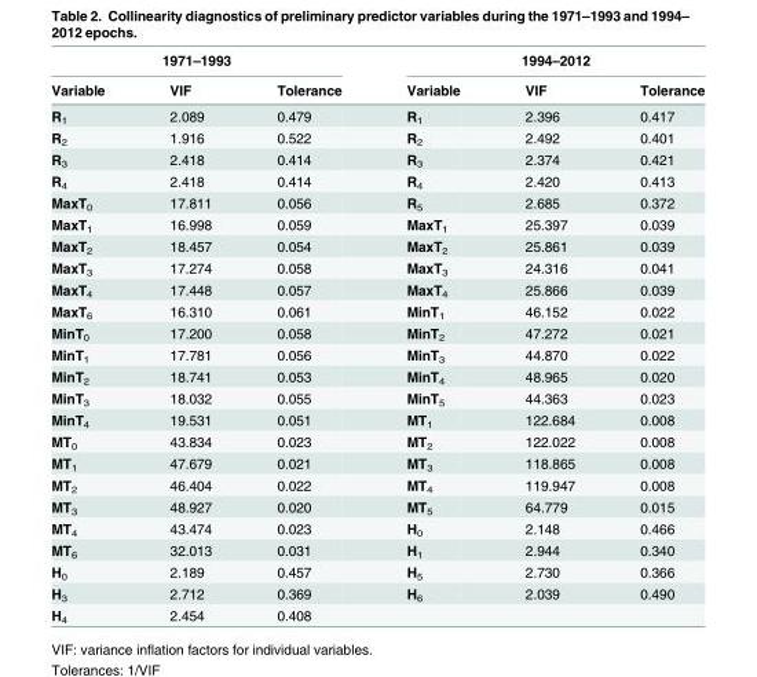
<table><thead><tr><td colspan="3">1971–1993</td><td colspan="3">1994–2012</td></tr><tr><td>Variable</td><td>VIF</td><td>Tolerance</td><td>Variable</td><td>VIF</td><td>Tolerance</td></tr></thead><tbody><tr><td>R<sub>1</sub></td><td>2.089</td><td>0.479</td><td>R<sub>1</sub></td><td>2.396</td><td>0.417</td></tr><tr><td>R<sub>2</sub></td><td>1.916</td><td>0.522</td><td>R<sub>2</sub></td><td>2.492</td><td>0.401</td></tr><tr><td>R<sub>3</sub></td><td>2.418</td><td>0.414</td><td>R<sub>3</sub></td><td>2.374</td><td>0.421</td></tr><tr><td>R<sub>4</sub></td><td>2.418</td><td>0.414</td><td>R<sub>4</sub></td><td>2.420</td><td>0.413</td></tr><tr><td>MaxT<sub>0</sub></td><td>17.811</td><td>0.056</td><td>R<sub>5</sub></td><td>2.685</td><td>0.372</td></tr><tr><td>MaxT<sub>1</sub></td><td>16.998</td><td>0.059</td><td>MaxT<sub>1</sub></td><td>25.397</td><td>0.039</td></tr><tr><td>MaxT<sub>2</sub></td><td>18.457</td><td>0.054</td><td>MaxT<sub>2</sub></td><td>25.861</td><td>0.039</td></tr><tr><td>MaxT<sub>3</sub></td><td>17.274</td><td>0.058</td><td>MaxT<sub>3</sub></td><td>24.316</td><td>0.041</td></tr><tr><td>MaxT<sub>4</sub></td><td>17.448</td><td>0.057</td><td>MaxT<sub>4</sub></td><td>25.866</td><td>0.039</td></tr><tr><td>MaxT<sub>6</sub></td><td>16.310</td><td>0.061</td><td>MinT<sub>1</sub></td><td>46.152</td><td>0.022</td></tr><tr><td>MinT<sub>0</sub></td><td>17.200</td><td>0.058</td><td>MinT<sub>2</sub></td><td>47.272</td><td>0.021</td></tr><tr><td>MinT<sub>1</sub></td><td>17.781</td><td>0.056</td><td>MinT<sub>3</sub></td><td>44.870</td><td>0.022</td></tr><tr><td>MinT<sub>2</sub></td><td>18.741</td><td>0.053</td><td>MinT<sub>4</sub></td><td>48.965</td><td>0.020</td></tr><tr><td>MinT<sub>3</sub></td><td>18.032</td><td>0.055</td><td>MinT<sub>5</sub></td><td>44.363</td><td>0.023</td></tr><tr><td>MinT<sub>4</sub></td><td>19.531</td><td>0.051</td><td>MT<sub>1</sub></td><td>122.684</td><td>0.008</td></tr><tr><td>MT<sub>0</sub></td><td>43.834</td><td>0.023</td><td>MT<sub>2</sub></td><td>122.022</td><td>0.008</td></tr><tr><td>MT<sub>1</sub></td><td>47.679</td><td>0.021</td><td>MT<sub>3</sub></td><td>118.865</td><td>0.008</td></tr><tr><td>MT<sub>2</sub></td><td>46.404</td><td>0.022</td><td>MT<sub>4</sub></td><td>119.947</td><td>0.008</td></tr><tr><td>MT<sub>3</sub></td><td>48.927</td><td>0.020</td><td>MT<sub>5</sub></td><td>64.779</td><td>0.015</td></tr><tr><td>MT<sub>4</sub></td><td>43.474</td><td>0.023</td><td>H<sub>0</sub></td><td>2.148</td><td>0.466</td></tr><tr><td>MT<sub>6</sub></td><td>32.013</td><td>0.031</td><td>H<sub>1</sub></td><td>2.944</td><td>0.340</td></tr><tr><td>H<sub>0</sub></td><td>2.189</td><td>0.457</td><td>H<sub>5</sub></td><td>2.730</td><td>0.366</td></tr><tr><td>H<sub>3</sub></td><td>2.712</td><td>0.369</td><td>H<sub>6</sub></td><td>2.039</td><td>0.490</td></tr><tr><td>H<sub>4</sub></td><td>2.454</td><td>0.408</td><td></td><td></td><td></td></tr></tbody></table>